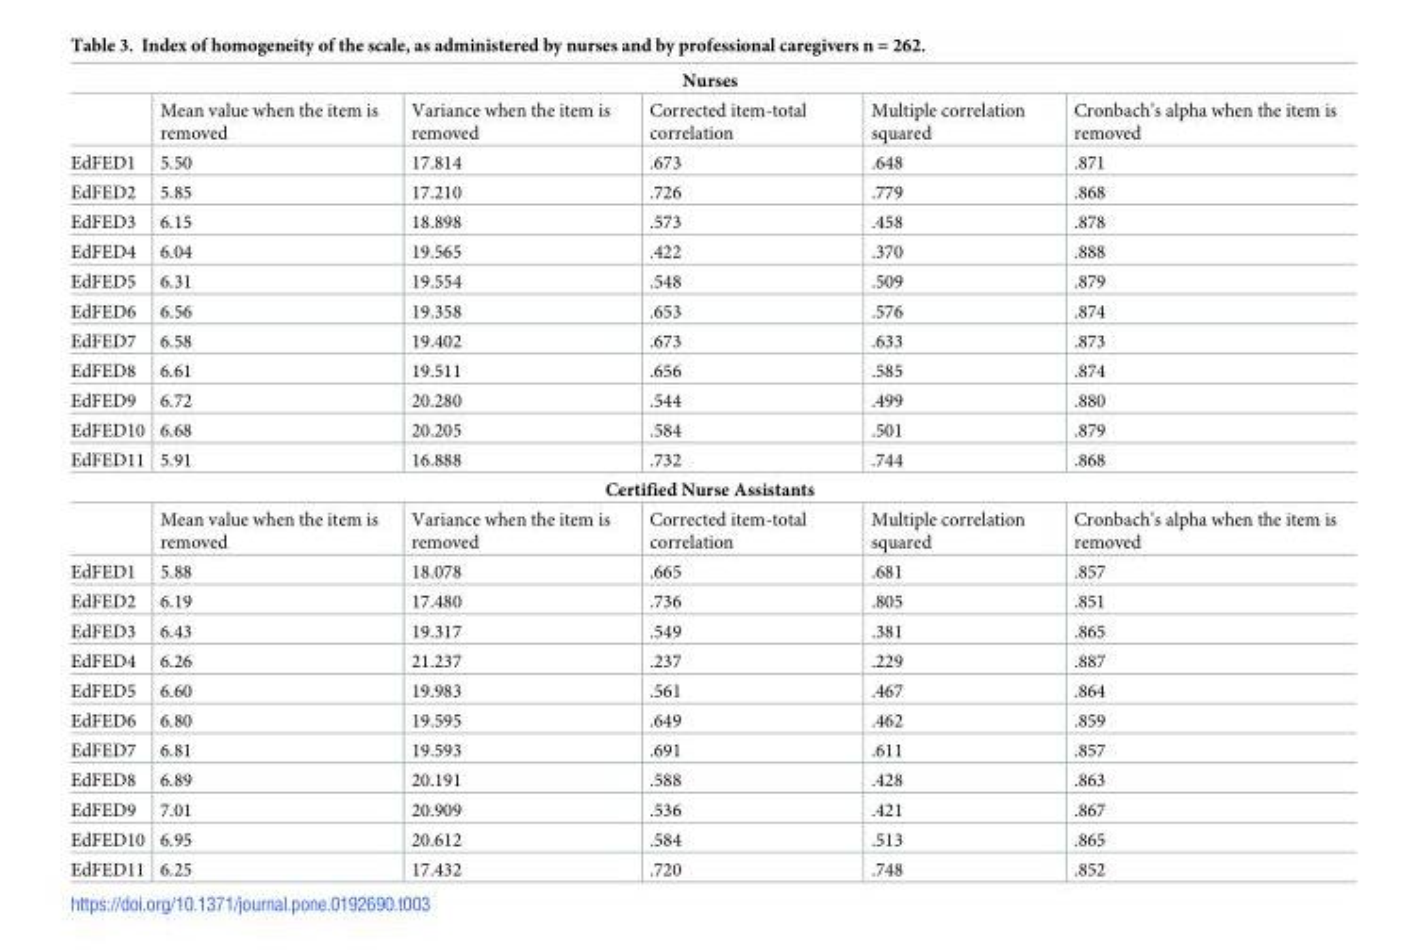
<table><tbody><tr><td colspan="6">Nurses</td></tr><tr><td></td><td>Mean value when the item is removed</td><td>Variance when the item is removed</td><td>Corrected item-total correlation</td><td>Multiple correlation squared</td><td>Cronbach’s alpha when the item is removed</td></tr><tr><td>EdFED1</td><td>5.50</td><td>17.814</td><td>.673</td><td>.648</td><td>.871</td></tr><tr><td>EdFED2</td><td>5.85</td><td>17.210</td><td>.726</td><td>.779</td><td>.868</td></tr><tr><td>EdFED3</td><td>6.15</td><td>18.898</td><td>.573</td><td>.458</td><td>.878</td></tr><tr><td>EdFED4</td><td>6.04</td><td>19.565</td><td>.422</td><td>.370</td><td>.888</td></tr><tr><td>EdFED5</td><td>6.31</td><td>19.554</td><td>.548</td><td>.509</td><td>.879</td></tr><tr><td>EdFED6</td><td>6.56</td><td>19.358</td><td>.653</td><td>.576</td><td>.874</td></tr><tr><td>EdFED7</td><td>6.58</td><td>19.402</td><td>.673</td><td>.633</td><td>.873</td></tr><tr><td>EdFED8</td><td>6.61</td><td>19.511</td><td>.656</td><td>.585</td><td>.874</td></tr><tr><td>EdFED9</td><td>6.72</td><td>20.280</td><td>.544</td><td>.499</td><td>.880</td></tr><tr><td>EdFED10</td><td>6.68</td><td>20.205</td><td>.584</td><td>.501</td><td>.879</td></tr><tr><td>EdFED11</td><td>5.91</td><td>16.888</td><td>.732</td><td>.744</td><td>.868</td></tr><tr><td colspan="6">Certified Nurse Assistants</td></tr><tr><td></td><td>Mean value when the item is removed</td><td>Variance when the item is removed</td><td>Corrected item-total correlation</td><td>Multiple correlation squared</td><td>Cronbach’s alpha when the item is removed</td></tr><tr><td>EdFED1</td><td>5.88</td><td>18.078</td><td>.665</td><td>.681</td><td>.857</td></tr><tr><td>EdFED2</td><td>6.19</td><td>17.480</td><td>.736</td><td>.805</td><td>.851</td></tr><tr><td>EdFED3</td><td>6.43</td><td>19.317</td><td>.549</td><td>.381</td><td>.865</td></tr><tr><td>EdFED4</td><td>6.26</td><td>21.237</td><td>.237</td><td>.229</td><td>.887</td></tr><tr><td>EdFED5</td><td>6.60</td><td>19.983</td><td>.561</td><td>.467</td><td>.864</td></tr><tr><td>EdFED6</td><td>6.80</td><td>19.595</td><td>.649</td><td>.462</td><td>.859</td></tr><tr><td>EdFED7</td><td>6.81</td><td>19.593</td><td>.691</td><td>.611</td><td>.857</td></tr><tr><td>EdFED8</td><td>6.89</td><td>20.191</td><td>.588</td><td>.428</td><td>.863</td></tr><tr><td>EdFED9</td><td>7.01</td><td>20.909</td><td>.536</td><td>.421</td><td>.867</td></tr><tr><td>EdFED10</td><td>6.95</td><td>20.612</td><td>.584</td><td>.513</td><td>.865</td></tr><tr><td>EdFED11</td><td>6.25</td><td>17.432</td><td>.720</td><td>.748</td><td>.852</td></tr></tbody></table>